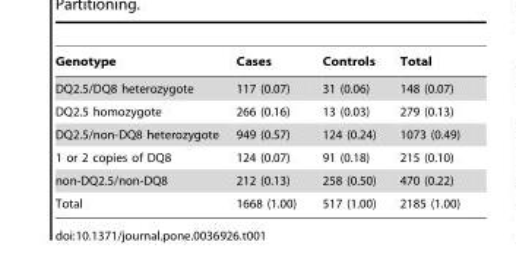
<table><thead><tr><td>Genotype</td><td>Cases</td><td>Controls</td><td>Total</td></tr></thead><tbody><tr><td>DQ2.5/DQ8 heterozygote</td><td>117 (0.07)</td><td>31 (0.06)</td><td>148 (0.07)</td></tr><tr><td>DQ2.5 homozygote</td><td>266 (0.16)</td><td>13 (0.03)</td><td>279 (0.13)</td></tr><tr><td>DQ2.5/non-DQ8 heterozygote</td><td>949 (0.57)</td><td>124 (0.24)</td><td>1073 (0.49)</td></tr><tr><td>1 or 2 copies of DQ8</td><td>124 (0.07)</td><td>91 (0.18)</td><td>215 (0.10)</td></tr><tr><td>non-DQ2.5/non-DQ8</td><td>212 (0.13)</td><td>258 (0.50)</td><td>470 (0.22)</td></tr><tr><td>Total</td><td>1668 (1.00)</td><td>517 (1.00)</td><td>2185 (1.00)</td></tr></tbody></table>